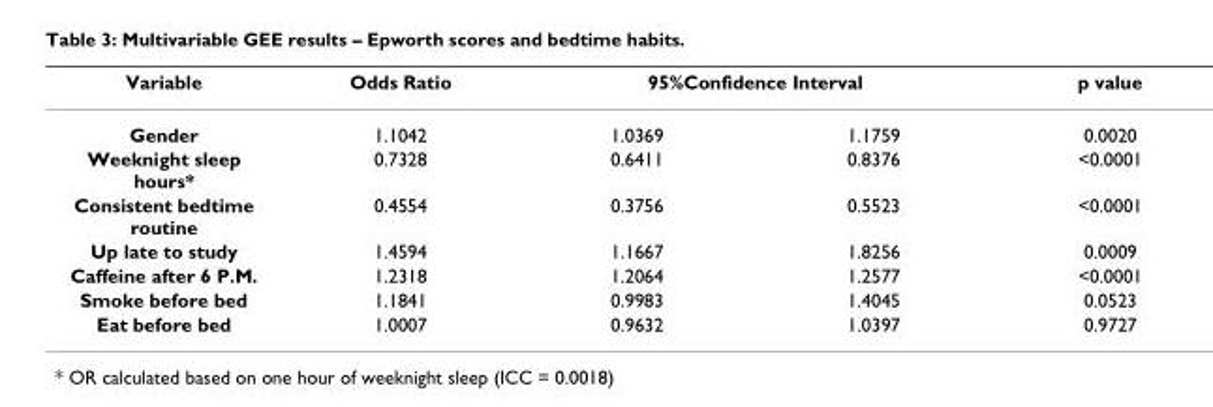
<table><thead><tr><td rowspan="2">Variable Gender</td><td rowspan="2">Odds Ratio 1.1042</td><td colspan="2">95%Confidence Interval</td><td rowspan="2">p value 0.0020</td></tr><tr><td>1.0369</td><td>1.1759</td></tr></thead><tbody><tr><td>Weeknight sleep hours*</td><td>0.7328</td><td>0.6411</td><td>0.8376</td><td>&lt;0.0001</td></tr><tr><td>Consistent bedtime routine</td><td>0.4554</td><td>0.3756</td><td>0.5523</td><td>&lt;0.0001</td></tr><tr><td>Up late to study</td><td>1.4594</td><td>1.1667</td><td>1.8256</td><td>0.0009</td></tr><tr><td>Caffeine after 6 P.M.</td><td>1.2318</td><td>1.2064</td><td>1.2577</td><td>&lt;0.0001</td></tr><tr><td>Smoke before bed</td><td>1.1841</td><td>0.9983</td><td>1.4045</td><td>0.0523</td></tr><tr><td>Eat before bed</td><td>1.0007</td><td>0.9632</td><td>1.0397</td><td>0.9727</td></tr></tbody></table>